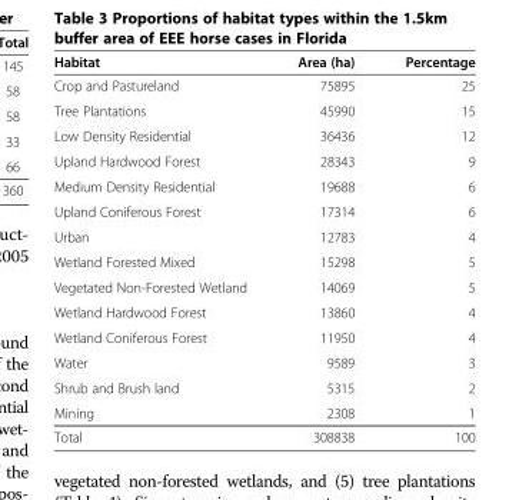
<table><thead><tr><td>Habitat</td><td>Area (ha)</td><td>Percentage</td></tr></thead><tbody><tr><td>Crop and Pastureland</td><td>75895</td><td>25</td></tr><tr><td>Tree Plantations</td><td>45990</td><td>15</td></tr><tr><td>Low Density Residential</td><td>36436</td><td>12</td></tr><tr><td>Upland Hardwood Forest</td><td>28343</td><td>9</td></tr><tr><td>Medium Density Residential</td><td>19688</td><td>6</td></tr><tr><td>Upland Coniferous Forest</td><td>17314</td><td>6</td></tr><tr><td>Urban</td><td>12783</td><td>4</td></tr><tr><td>Wetland Forested Mixed</td><td>15298</td><td>5</td></tr><tr><td>Vegetated Non-Forested Wetland</td><td>14069</td><td>5</td></tr><tr><td>Wetland Hardwood Forest</td><td>13860</td><td>4</td></tr><tr><td>Wetland Coniferous Forest</td><td>11950</td><td>4</td></tr><tr><td>Water</td><td>9589</td><td>3</td></tr><tr><td>Shrub and Brush land</td><td>5315</td><td>2</td></tr><tr><td>Mining</td><td>2308</td><td>1</td></tr><tr><td>Total</td><td>308838</td><td>100</td></tr></tbody></table>